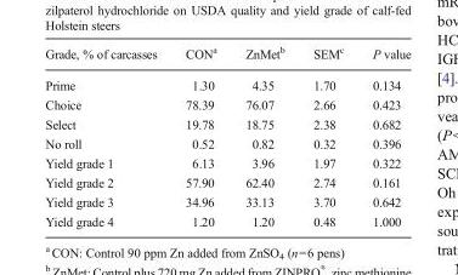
<table><thead><tr><td>Grade, % of carcasses</td><td>CON<sup>a</sup></td><td>ZnMet<sup>b</sup></td><td>SEM<sup>c</sup></td><td>P value</td></tr></thead><tbody><tr><td>Prime</td><td>1.30</td><td>4.35</td><td>1.70</td><td>0.134</td></tr><tr><td>Choice</td><td>78.39</td><td>76.07</td><td>2.66</td><td>0.423</td></tr><tr><td>Select</td><td>19.78</td><td>18.75</td><td>2.38</td><td>0.682</td></tr><tr><td>No roll</td><td>0.52</td><td>0.82</td><td>0.32</td><td>0.396</td></tr><tr><td>Yield grade 1</td><td>6.13</td><td>3.96</td><td>1.97</td><td>0.322</td></tr><tr><td>Yield grade 2</td><td>57.90</td><td>62.40</td><td>2.74</td><td>0.161</td></tr><tr><td>Yield grade 3</td><td>34.96</td><td>33.13</td><td>3.70</td><td>0.642</td></tr><tr><td>Yield grade 4</td><td>1.20</td><td>1.20</td><td>0.48</td><td>1.000</td></tr></tbody></table>